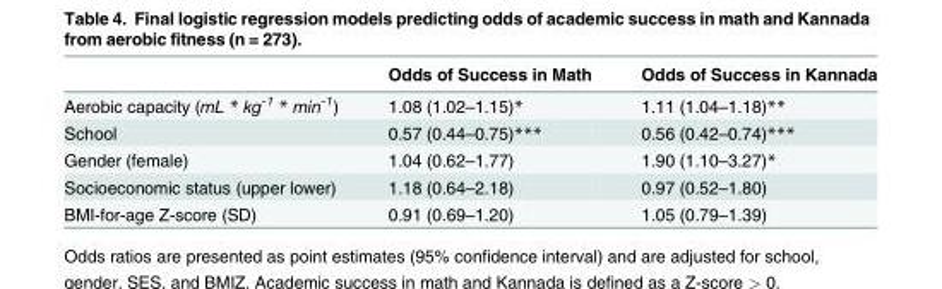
<table><thead><tr><td></td><td>Odds of Success in Math</td><td>Odds of Success in Kannada</td></tr></thead><tbody><tr><td>Aerobic capacity (mL * kg<sup>-1</sup> * min<sup>-1</sup>)</td><td>1.08 (1.02–1.15)*</td><td>1.11 (1.04–1.18)**</td></tr><tr><td>School</td><td>0.57 (0.44–0.75)***</td><td>0.56 (0.42–0.74)***</td></tr><tr><td>Gender (female)</td><td>1.04 (0.62–1.77)</td><td>1.90 (1.10–3.27)*</td></tr><tr><td>Socioeconomic status (upper lower)</td><td>1.18 (0.64–2.18)</td><td>0.97 (0.52–1.80)</td></tr><tr><td>BMI-for-age Z-score (SD)</td><td>0.91 (0.69–1.20)</td><td>1.05 (0.79–1.39)</td></tr></tbody></table>